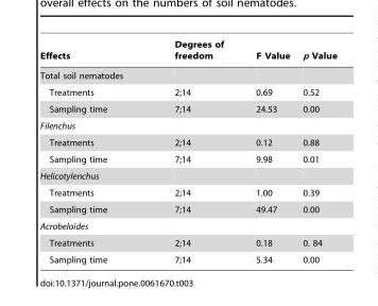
<table><thead><tr><td>Effects</td><td>Degrees of freedom</td><td>F Value</td><td>p Value</td></tr></thead><tbody><tr><td colspan="4">Total soil nematodes</td></tr><tr><td>Treatments</td><td>2;14</td><td>0.69</td><td>0.52</td></tr><tr><td>Sampling time</td><td>7;14</td><td>24.53</td><td>0.00</td></tr><tr><td colspan="4">Filenchus</td></tr><tr><td>Treatments</td><td>2;14</td><td>0.12</td><td>0.88</td></tr><tr><td>Sampling time</td><td>7;14</td><td>9.98</td><td>0.01</td></tr><tr><td colspan="4">Helicotylenchus</td></tr><tr><td>Treatments</td><td>2;14</td><td>1.00</td><td>0.39</td></tr><tr><td>Sampling time</td><td>7;14</td><td>49.47</td><td>0.00</td></tr><tr><td colspan="4">Acrobeloides</td></tr><tr><td>Treatments</td><td>2;14</td><td>0.18</td><td>0. 84</td></tr><tr><td>Sampling time</td><td>7;14</td><td>5.34</td><td>0.00</td></tr></tbody></table>